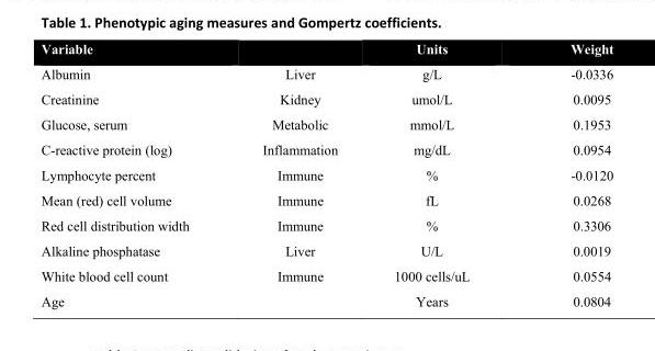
<table><tbody><tr><td>Variable</td><td></td><td>Units</td><td>Weight</td></tr><tr><td>Albumin</td><td>Liver</td><td>g/L</td><td>-0.0336</td></tr><tr><td>Creatinine</td><td>Kidney</td><td>umol/L</td><td>0.0095</td></tr><tr><td>Glucose, serum</td><td>Metabolic</td><td>mmol/L</td><td>0.1953</td></tr><tr><td>C-reactive protein (log)</td><td>Inflammation</td><td>mg/dL</td><td>0.0954</td></tr><tr><td>Lymphocyte percent</td><td>Immune</td><td>%</td><td>-0.0120</td></tr><tr><td>Mean (red) cell volume</td><td>Immune</td><td>fL</td><td>0.0268</td></tr><tr><td>Red cell distribution width</td><td>Immune</td><td>%</td><td>0.3306</td></tr><tr><td>Alkaline phosphatase</td><td>Liver</td><td>U/L</td><td>0.0019</td></tr><tr><td>White blood cell count</td><td>Immune</td><td>1000 cells/uL</td><td>0.0554</td></tr><tr><td>Age</td><td></td><td>Years</td><td>0.0804</td></tr></tbody></table>